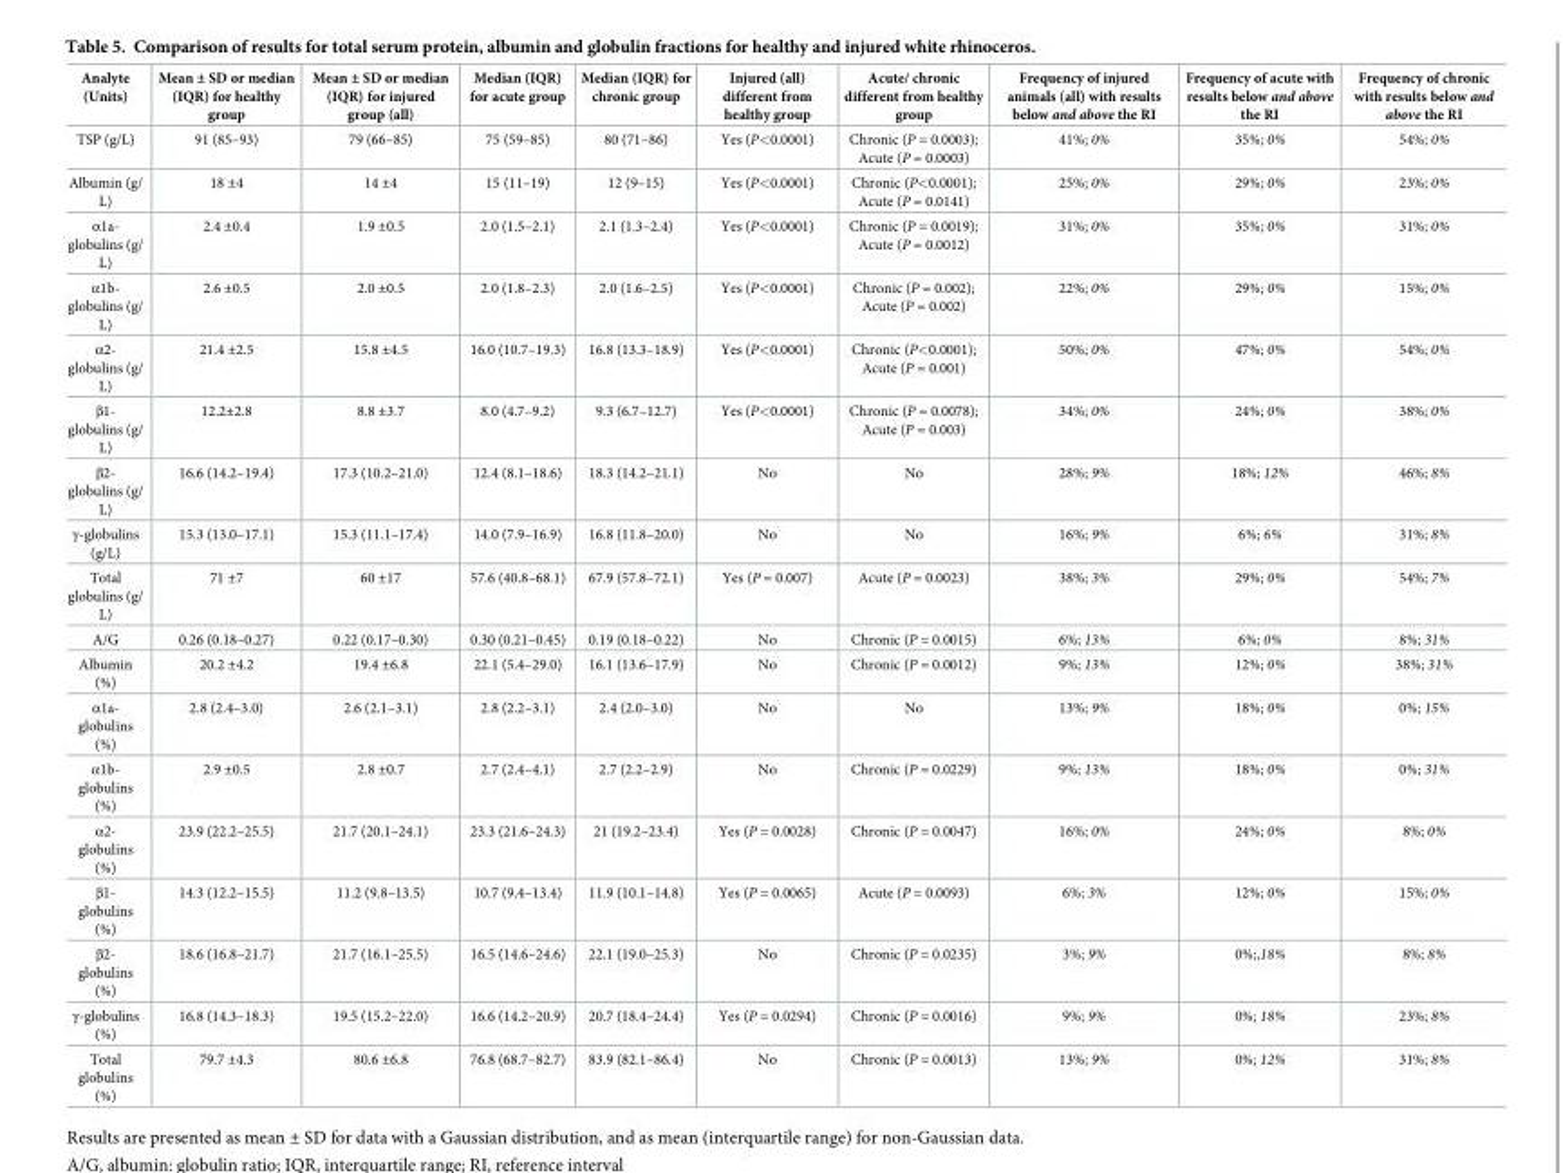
<table><thead><tr><td>Analyte (Units)</td><td>Mean ± SD or median (IQR) for healthy group</td><td>Mean ± SD or median (IQR) for injured group (all)</td><td>Median (IQR) for acute group</td><td>Median (IQR) for chronic group</td><td>Injured (all) different from healthy group</td><td>Acute/ chronic different from healthy group</td><td>Frequency of injured animals (all) with results below and above the RI</td><td>Frequency of acute with results below and above the RI</td><td>Frequency of chronic with results below and above the RI</td></tr></thead><tbody><tr><td>TSP (g/L)</td><td>91 (85–93)</td><td>79 (66–85)</td><td>75 (59–85)</td><td>80 (71–86)</td><td>Yes (P&lt;0.0001)</td><td>Chronic (P = 0.0003); Acute (P = 0.0003)</td><td>41%; 0%</td><td>35%; 0%</td><td>54%; 0%</td></tr><tr><td>Albumin (g/ L)</td><td>18 ±4</td><td>14 ±4</td><td>15 (11–19)</td><td>12 (9–15)</td><td>Yes (P&lt;0.0001)</td><td>Chronic (P&lt;0.0001); Acute (P = 0.0141)</td><td>25%; 0%</td><td>29%; 0%</td><td>23%; 0%</td></tr><tr><td>α1a- globulins (g/ L)</td><td>2.4 ±0.4</td><td>1.9 ±0.5</td><td>2.0 (1.5–2.1)</td><td>2.1 (1.3–2.4)</td><td>Yes (P&lt;0.0001)</td><td>Chronic (P = 0.0019); Acute (P = 0.0012)</td><td>31%; 0%</td><td>35%; 0%</td><td>31%; 0%</td></tr><tr><td>α1b- globulins (g/ L)</td><td>2.6 ±0.5</td><td>2.0 ±0.5</td><td>2.0 (1.8–2.3)</td><td>2.0 (1.6–2.5)</td><td>Yes (P&lt;0.0001)</td><td>Chronic (P = 0.002); Acute (P = 0.002)</td><td>22%; 0%</td><td>29%; 0%</td><td>15%; 0%</td></tr><tr><td>α2- globulins (g/ L)</td><td>21.4 ±2.5</td><td>15.8 ±4.5</td><td>16.0 (10.7–19.3)</td><td>16.8 (13.3–18.9)</td><td>Yes (P&lt;0.0001)</td><td>Chronic (P&lt;0.0001); Acute (P = 0.001)</td><td>50%; 0%</td><td>47%; 0%</td><td>54%; 0%</td></tr><tr><td>β1- globulins (g/ L)</td><td>12.2±2.8</td><td>8.8 ±3.7</td><td>8.0 (4.7–9.2)</td><td>9.3 (6.7–12.7)</td><td>Yes (P&lt;0.0001)</td><td>Chronic (P = 0.0078); Acute (P = 0.003)</td><td>34%; 0%</td><td>24%; 0%</td><td>38%; 0%</td></tr><tr><td>β2- globulins (g/ L)</td><td>16.6 (14.2–19.4)</td><td>17.3 (10.2–21.0)</td><td>12.4 (8.1–18.6)</td><td>18.3 (14.2–21.1)</td><td>No</td><td>No</td><td>28%; 9%</td><td>18%; 12%</td><td>46%; 8%</td></tr><tr><td>γ-globulins (g/L)</td><td>15.3 (13.0–17.1)</td><td>15.3 (11.1–17.4)</td><td>14.0 (7.9–16.9)</td><td>16.8 (11.8–20.0)</td><td>No</td><td>No</td><td>16%; 9%</td><td>6%; 6%</td><td>31%; 8%</td></tr><tr><td>Total globulins (g/ L)</td><td>71 ±7</td><td>60 ±17</td><td>57.6 (40.8–68.1)</td><td>67.9 (57.8–72.1)</td><td>Yes (P = 0.007)</td><td>Acute (P = 0.0023)</td><td>38%; 3%</td><td>29%; 0%</td><td>54%; 7%</td></tr><tr><td>A/G</td><td>0.26 (0.18–0.27)</td><td>0.22 (0.17–0.30)</td><td>0.30 (0.21–0.45)</td><td>0.19 (0.18–0.22)</td><td>No</td><td>Chronic (P = 0.0015)</td><td>6%; 13%</td><td>6%; 0%</td><td>8%; 31%</td></tr><tr><td>Albumin (%)</td><td>20.2 ±4.2</td><td>19.4 ±6.8</td><td>22.1 (5.4–29.0)</td><td>16.1 (13.6–17.9)</td><td>No</td><td>Chronic (P = 0.0012)</td><td>9%; 13%</td><td>12%; 0%</td><td>38%; 31%</td></tr><tr><td>α1a- globulins (%)</td><td>2.8 (2.4–3.0)</td><td>2.6 (2.1–3.1)</td><td>2.8 (2.2–3.1)</td><td>2.4 (2.0–3.0)</td><td>No</td><td>No</td><td>13%; 9%</td><td>18%; 0%</td><td>0%; 15%</td></tr><tr><td>α1b- globulins (%)</td><td>2.9 ±0.5</td><td>2.8 ±0.7</td><td>2.7 (2.4–4.1)</td><td>2.7 (2.2–2.9)</td><td>No</td><td>Chronic (P = 0.0229)</td><td>9%; 13%</td><td>18%; 0%</td><td>0%; 31%</td></tr><tr><td>α2- globulins (%)</td><td>23.9 (22.2–25.5)</td><td>21.7 (20.1–24.1)</td><td>23.3 (21.6–24.3)</td><td>21 (19.2–23.4)</td><td>Yes (P = 0.0028)</td><td>Chronic (P = 0.0047)</td><td>16%; 0%</td><td>24%; 0%</td><td>8%; 0%</td></tr><tr><td>β1- globulins (%)</td><td>14.3 (12.2–15.5)</td><td>11.2 (9.8–13.5)</td><td>10.7 (9.4–13.4)</td><td>11.9 (10.1–14.8)</td><td>Yes (P = 0.0065)</td><td>Acute (P = 0.0093)</td><td>6%; 3%</td><td>12%; 0%</td><td>15%; 0%</td></tr><tr><td>β2- globulins (%)</td><td>18.6 (16.8–21.7)</td><td>21.7 (16.1–25.5)</td><td>16.5 (14.6–24.6)</td><td>22.1 (19.0–25.3)</td><td>No</td><td>Chronic (P = 0.0235)</td><td>3%; 9%</td><td>0%;,18%</td><td>8%; 8%</td></tr><tr><td>γ-globulins (%)</td><td>16.8 (14.3–18.3)</td><td>19.5 (15.2–22.0)</td><td>16.6 (14.2–20.9)</td><td>20.7 (18.4–24.4)</td><td>Yes (P = 0.0294)</td><td>Chronic (P = 0.0016)</td><td>9%; 9%</td><td>0%; 18%</td><td>23%; 8%</td></tr><tr><td>Total globulins (%)</td><td>79.7 ±4.3</td><td>80.6 ±6.8</td><td>76.8 (68.7–82.7)</td><td>83.9 (82.1–86.4)</td><td>No</td><td>Chronic (P = 0.0013)</td><td>13%; 9%</td><td>0%; 12%</td><td>31%; 8%</td></tr></tbody></table>